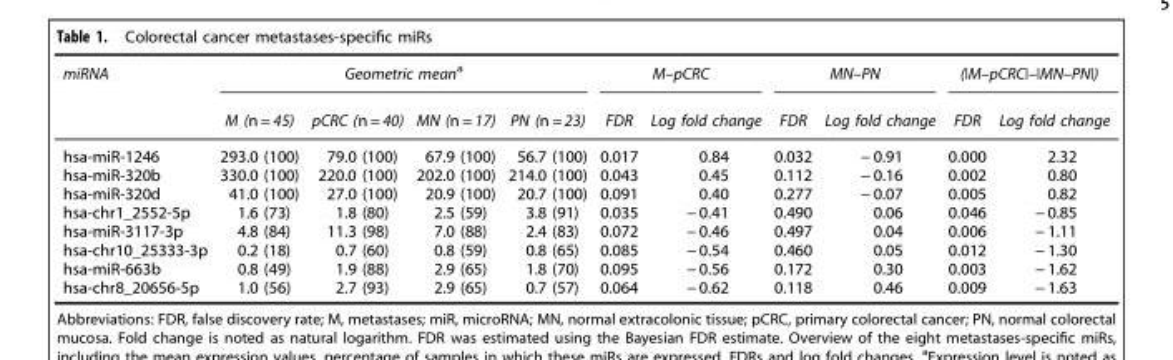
<table><thead><tr><td rowspan="2">miRNA</td><td colspan="4">Geometric mean<sup>a</sup></td><td colspan="2">M–pCRC</td><td colspan="2">MN–PN</td><td colspan="2">(|M–pCRC|–|MN–PN|)</td></tr><tr><td>M (n = 45)</td><td>pCRC (n = 40)</td><td>MN (n = 17)</td><td>PN (n = 23)</td><td>FDR</td><td>Log fold change</td><td>FDR</td><td>Log fold change</td><td>FDR</td><td>Log fold change</td></tr></thead><tbody><tr><td>hsa-miR-1246</td><td>293.0 (100)</td><td>79.0 (100)</td><td>67.9 (100)</td><td>56.7 (100)</td><td>0.017</td><td>0.84</td><td>0.032</td><td>− 0.91</td><td>0.000</td><td>2.32</td></tr><tr><td>hsa-miR-320b</td><td>330.0 (100)</td><td>220.0 (100)</td><td>202.0 (100)</td><td>214.0 (100)</td><td>0.043</td><td>0.45</td><td>0.112</td><td>− 0.16</td><td>0.002</td><td>0.80</td></tr><tr><td>hsa-miR-320d</td><td>41.0 (100)</td><td>27.0 (100)</td><td>20.9 (100)</td><td>20.7 (100)</td><td>0.091</td><td>0.40</td><td>0.277</td><td>− 0.07</td><td>0.005</td><td>0.82</td></tr><tr><td>hsa-chr1_2552-5p</td><td>1.6 (73)</td><td>1.8 (80)</td><td>2.5 (59)</td><td>3.8 (91)</td><td>0.035</td><td>− 0.41</td><td>0.490</td><td>0.06</td><td>0.046</td><td>− 0.85</td></tr><tr><td>hsa-miR-3117-3p</td><td>4.8 (84)</td><td>11.3 (98)</td><td>7.0 (88)</td><td>2.4 (83)</td><td>0.072</td><td>− 0.46</td><td>0.497</td><td>0.04</td><td>0.006</td><td>− 1.11</td></tr><tr><td>hsa-chr10_25333-3p</td><td>0.2 (18)</td><td>0.7 (60)</td><td>0.8 (59)</td><td>0.8 (65)</td><td>0.085</td><td>− 0.54</td><td>0.460</td><td>0.05</td><td>0.012</td><td>− 1.30</td></tr><tr><td>hsa-miR-663b</td><td>0.8 (49)</td><td>1.9 (88)</td><td>2.9 (65)</td><td>1.8 (70)</td><td>0.095</td><td>− 0.56</td><td>0.172</td><td>0.30</td><td>0.003</td><td>− 1.62</td></tr><tr><td>hsa-chr8_20656-5p</td><td>1.0 (56)</td><td>2.7 (93)</td><td>2.9 (65)</td><td>0.7 (57)</td><td>0.064</td><td>− 0.62</td><td>0.118</td><td>0.46</td><td>0.009</td><td>− 1.63</td></tr></tbody></table>